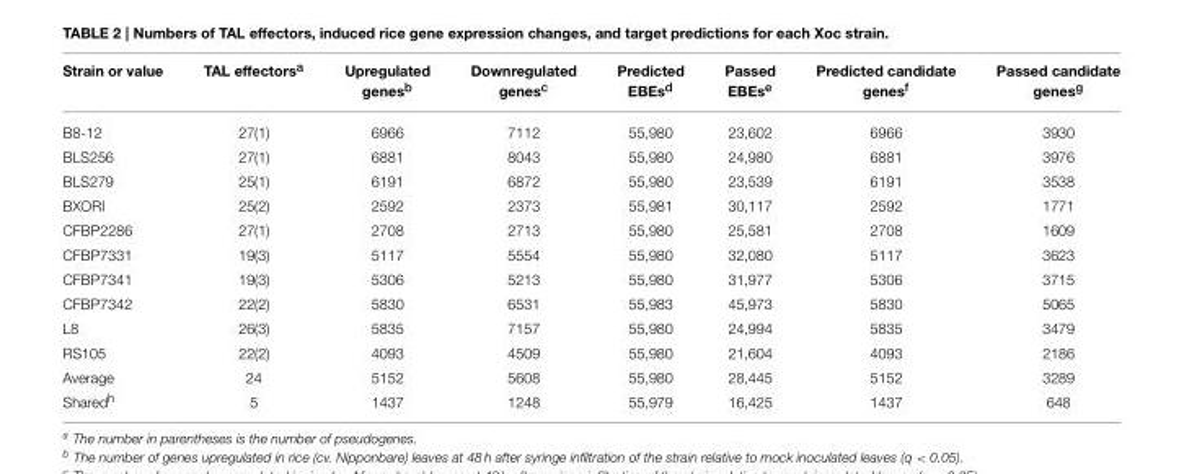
<table><thead><tr><td>Strain or value</td><td>TAL effectors<sup>a</sup></td><td>Upregulated genes<sup>b</sup></td><td>Downregulated genes<sup>c</sup></td><td>Predicted EBEs<sup>d</sup></td><td>Passed EBEs<sup>e</sup></td><td>Predicted candidate genes<sup>f</sup></td><td>Passed candidate genes<sup>g</sup></td></tr></thead><tbody><tr><td>B8-12</td><td>27(1)</td><td>6966</td><td>7112</td><td>55,980</td><td>23,602</td><td>6966</td><td>3930</td></tr><tr><td>BLS256</td><td>27(1)</td><td>6881</td><td>8043</td><td>55,980</td><td>24,980</td><td>6881</td><td>3976</td></tr><tr><td>BLS279</td><td>25(1)</td><td>6191</td><td>6872</td><td>55,980</td><td>23,539</td><td>6191</td><td>3538</td></tr><tr><td>BXORI</td><td>25(2)</td><td>2592</td><td>2373</td><td>55,981</td><td>30,117</td><td>2592</td><td>1771</td></tr><tr><td>CFBP2286</td><td>27(1)</td><td>2708</td><td>2713</td><td>55,980</td><td>25,581</td><td>2708</td><td>1609</td></tr><tr><td>CFBP7331</td><td>19(3)</td><td>5117</td><td>5554</td><td>55,980</td><td>32,080</td><td>5117</td><td>3623</td></tr><tr><td>CFBP7341</td><td>19(3)</td><td>5306</td><td>5213</td><td>55,980</td><td>31,977</td><td>5306</td><td>3715</td></tr><tr><td>CFBP7342</td><td>22(2)</td><td>5830</td><td>6531</td><td>55,983</td><td>45,973</td><td>5830</td><td>5065</td></tr><tr><td>L8</td><td>26(3)</td><td>5835</td><td>7157</td><td>55,980</td><td>24,994</td><td>5835</td><td>3479</td></tr><tr><td>RS105</td><td>22(2)</td><td>4093</td><td>4509</td><td>55,980</td><td>21,604</td><td>4093</td><td>2186</td></tr><tr><td>Average</td><td>24</td><td>5152</td><td>5608</td><td>55,980</td><td>28,445</td><td>5152</td><td>3289</td></tr><tr><td>Shared<sup>h</sup></td><td>5</td><td>1437</td><td>1248</td><td>55,979</td><td>16,425</td><td>1437</td><td>648</td></tr></tbody></table>